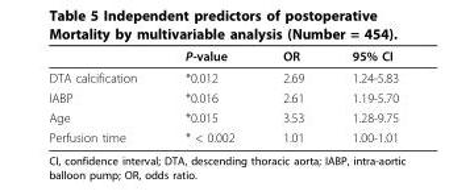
<table><thead><tr><td></td><td>P-value</td><td>OR</td><td>95% CI</td></tr></thead><tbody><tr><td>DTA calcification</td><td>*0.012</td><td>2.69</td><td>1.24-5.83</td></tr><tr><td>IABP</td><td>*0.016</td><td>2.61</td><td>1.19-5.70</td></tr><tr><td>Age</td><td>*0.015</td><td>3.53</td><td>1.28-9.75</td></tr><tr><td>Perfusion time</td><td>* &lt; 0.002</td><td>1.01</td><td>1.00-1.01</td></tr></tbody></table>